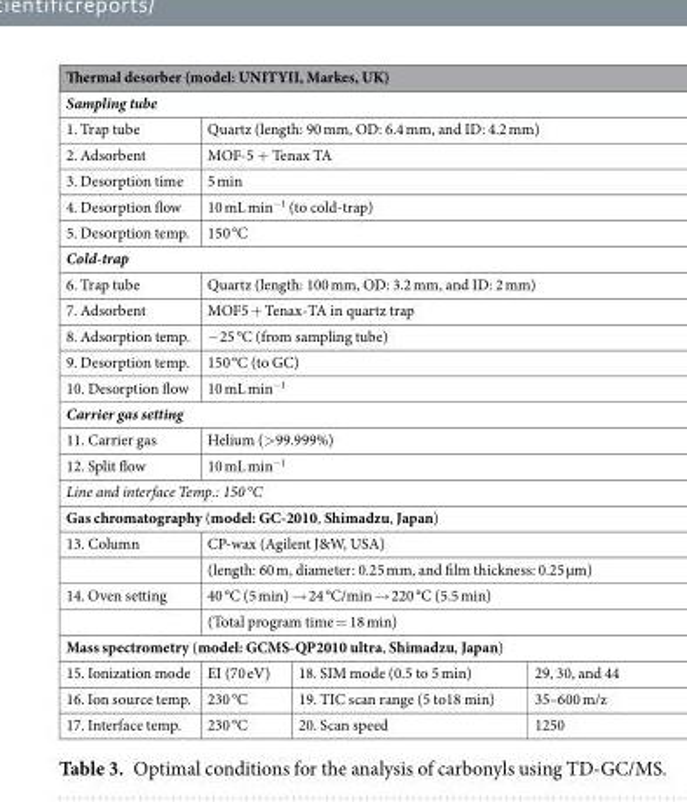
<table><thead><tr><td colspan="4">Thermal desorber (model: UNITYII, Markes, UK)</td></tr></thead><tbody><tr><td colspan="4">Sampling tube</td></tr><tr><td>1. Trap tube</td><td colspan="3">Quartz (length: 90 mm, OD: 6.4 mm, and ID: 4.2 mm)</td></tr><tr><td>2. Adsorbent</td><td colspan="3">MOF-5 + Tenax TA</td></tr><tr><td>3. Desorption time</td><td colspan="3">5 min</td></tr><tr><td>4. Desorption flow</td><td colspan="3">10 mL min<sup>−1</sup> (to cold-trap)</td></tr><tr><td>5. Desorption temp.</td><td colspan="3">150 °C</td></tr><tr><td colspan="4">Cold-trap</td></tr><tr><td>6. Trap tube</td><td colspan="3">Quartz (length: 100 mm, OD: 3.2 mm, and ID: 2 mm)</td></tr><tr><td>7. Adsorbent</td><td colspan="3">MOF5 + Tenax-TA in quartz trap</td></tr><tr><td>8. Adsorption temp.</td><td colspan="3">−25 °C (from sampling tube)</td></tr><tr><td>9. Desorption temp.</td><td colspan="3">150 °C (to GC)</td></tr><tr><td>10. Desorption flow</td><td colspan="3">10 mL min<sup>−1</sup></td></tr><tr><td colspan="4">Carrier gas setting</td></tr><tr><td>11. Carrier gas</td><td colspan="3">Helium (&gt;99.999%)</td></tr><tr><td>12. Split flow</td><td colspan="3">10 mL min<sup>−1</sup></td></tr><tr><td colspan="4">Line and interface Temp.: 150 °C</td></tr><tr><td colspan="4">Gas chromatography (model: GC-2010, Shimadzu, Japan)</td></tr><tr><td rowspan="2">13. Column</td><td colspan="3">CP-wax (Agilent J&amp;W, USA)</td></tr><tr><td colspan="3">(length: 60 m, diameter: 0.25 mm, and film thickness: 0.25 µm)</td></tr><tr><td rowspan="2">14. Oven setting</td><td colspan="3">40 °C (5 min) → 24 °C/min → 220 °C (5.5 min)</td></tr><tr><td colspan="3">(Total program time = 18 min)</td></tr><tr><td colspan="4">Mass spectrometry (model: GCMS-QP2010 ultra, Shimadzu, Japan)</td></tr><tr><td>15. Ionization mode</td><td>EI (70 eV)</td><td>18. SIM mode (0.5 to 5 min)</td><td>29, 30, and 44</td></tr><tr><td>16. Ion source temp.</td><td>230 °C</td><td>19. TIC scan range (5 to18 min)</td><td>35–600 m/z</td></tr><tr><td>17. Interface temp.</td><td>230 °C</td><td>20. Scan speed</td><td>1250</td></tr></tbody></table>